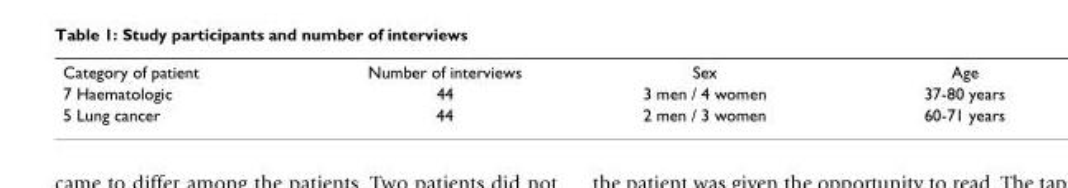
<table><tbody><tr><td>Category of patient</td><td>Number of interviews</td><td>Sex</td><td>Age</td></tr><tr><td>7 Haematologic</td><td>44</td><td>3 men / 4 women</td><td>37-80 years</td></tr><tr><td>5 Lung cancer</td><td>44</td><td>2 men / 3 women</td><td>60-71 years</td></tr></tbody></table>